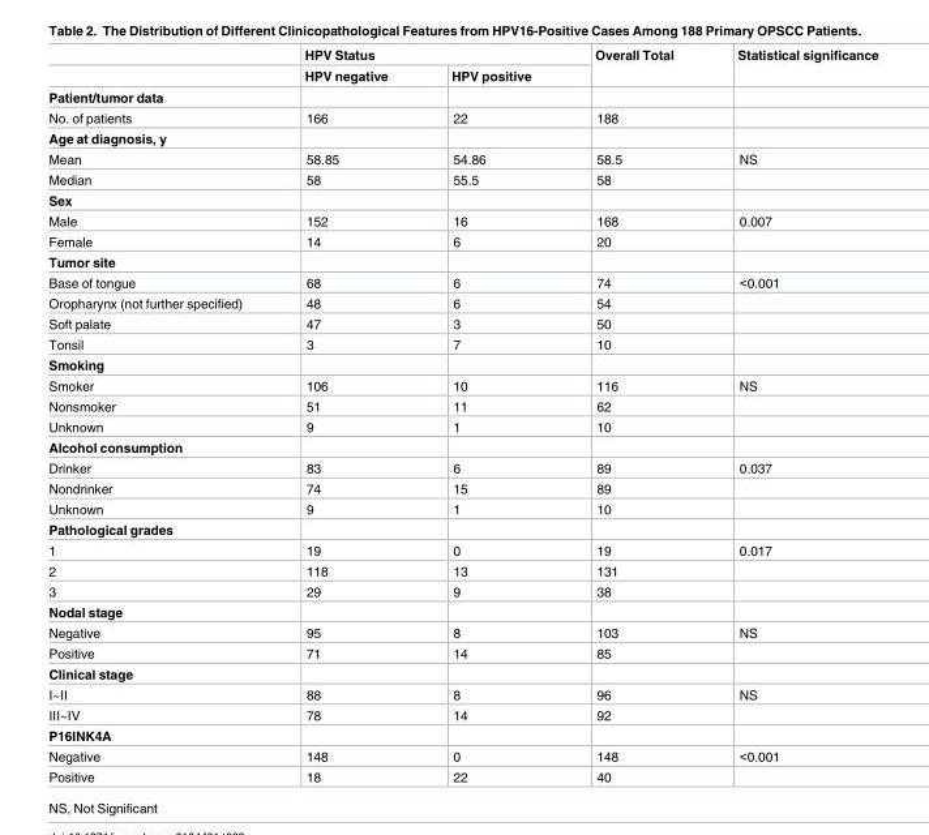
<table><thead><tr><td rowspan="2"></td><td colspan="2">HPV Status</td><td rowspan="2">Overall Total</td><td rowspan="2">Statistical significance</td></tr><tr><td>HPV negative</td><td>HPV positive</td></tr></thead><tbody><tr><td colspan="5">Patient/tumor data</td></tr><tr><td>No. of patients</td><td>166</td><td>22</td><td>188</td><td></td></tr><tr><td colspan="5">Age at diagnosis, y</td></tr><tr><td>Mean</td><td>58.85</td><td>54.86</td><td>58.5</td><td>NS</td></tr><tr><td>Median</td><td>58</td><td>55.5</td><td>58</td><td></td></tr><tr><td colspan="5">Sex</td></tr><tr><td>Male</td><td>152</td><td>16</td><td>168</td><td>0.007</td></tr><tr><td>Female</td><td>14</td><td>6</td><td>20</td><td></td></tr><tr><td colspan="5">Tumor site</td></tr><tr><td>Base of tongue</td><td>68</td><td>6</td><td>74</td><td>&lt;0.001</td></tr><tr><td>Oropharynx (not further specified)</td><td>48</td><td>6</td><td>54</td><td></td></tr><tr><td>Soft palate</td><td>47</td><td>3</td><td>50</td><td></td></tr><tr><td>Tonsil</td><td>3</td><td>7</td><td>10</td><td></td></tr><tr><td colspan="5">Smoking</td></tr><tr><td>Smoker</td><td>106</td><td>10</td><td>116</td><td>NS</td></tr><tr><td>Nonsmoker</td><td>51</td><td>11</td><td>62</td><td></td></tr><tr><td>Unknown</td><td>9</td><td>1</td><td>10</td><td></td></tr><tr><td colspan="5">Alcohol consumption</td></tr><tr><td>Drinker</td><td>83</td><td>6</td><td>89</td><td>0.037</td></tr><tr><td>Nondrinker</td><td>74</td><td>15</td><td>89</td><td></td></tr><tr><td>Unknown</td><td>9</td><td>1</td><td>10</td><td></td></tr><tr><td colspan="5">Pathological grades</td></tr><tr><td>1</td><td>19</td><td>0</td><td>19</td><td>0.017</td></tr><tr><td>2</td><td>118</td><td>13</td><td>131</td><td></td></tr><tr><td>3</td><td>29</td><td>9</td><td>38</td><td></td></tr><tr><td colspan="5">Nodal stage</td></tr><tr><td>Negative</td><td>95</td><td>8</td><td>103</td><td>NS</td></tr><tr><td>Positive</td><td>71</td><td>14</td><td>85</td><td></td></tr><tr><td colspan="5">Clinical stage</td></tr><tr><td>I~II</td><td>88</td><td>8</td><td>96</td><td>NS</td></tr><tr><td>III~IV</td><td>78</td><td>14</td><td>92</td><td></td></tr><tr><td colspan="5">P16INK4A</td></tr><tr><td>Negative</td><td>148</td><td>0</td><td>148</td><td>&lt;0.001</td></tr><tr><td>Positive</td><td>18</td><td>22</td><td>40</td><td></td></tr></tbody></table>